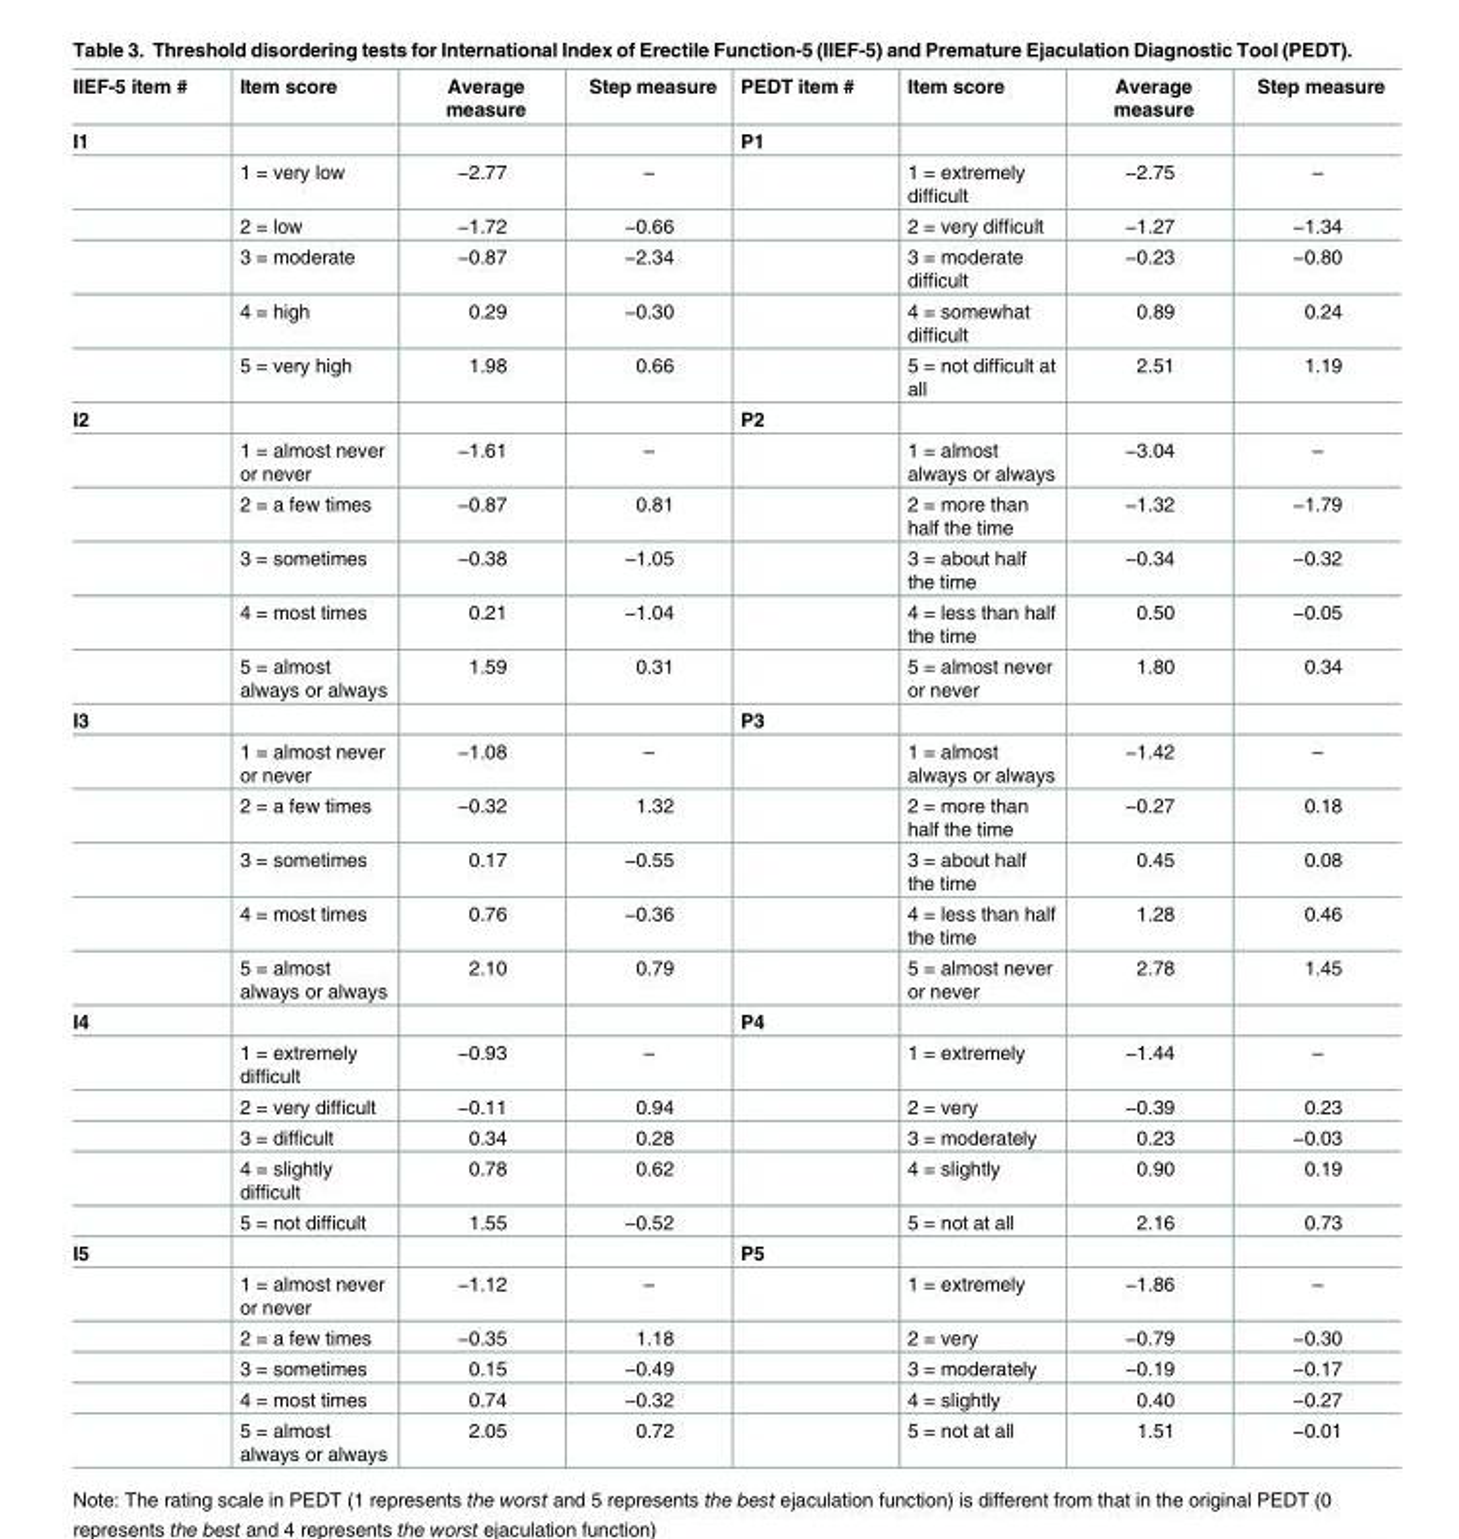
<table><thead><tr><td>IIEF-5 item #</td><td>Item score</td><td>Average measure</td><td>Step measure</td><td>PEDT item #</td><td>Item score</td><td>Average measure</td><td>Step measure</td></tr></thead><tbody><tr><td rowspan="6">I1</td><td></td><td></td><td></td><td>P1</td><td></td><td></td><td></td></tr><tr><td>1 = very low</td><td>−2.77</td><td>–</td><td></td><td>1 = extremely difficult</td><td>−2.75</td><td>–</td></tr><tr><td>2 = low</td><td>−1.72</td><td>−0.66</td><td></td><td>2 = very difficult</td><td>−1.27</td><td>−1.34</td></tr><tr><td>3 = moderate</td><td>−0.87</td><td>−2.34</td><td></td><td>3 = moderate difficult</td><td>−0.23</td><td>−0.80</td></tr><tr><td>4 = high</td><td>0.29</td><td>−0.30</td><td></td><td>4 = somewhat difficult</td><td>0.89</td><td>0.24</td></tr><tr><td>5 = very high</td><td>1.98</td><td>0.66</td><td></td><td>5 = not difficult at all</td><td>2.51</td><td>1.19</td></tr><tr><td rowspan="6">I2</td><td></td><td></td><td></td><td>P2</td><td></td><td></td><td></td></tr><tr><td>1 = almost never or never</td><td>−1.61</td><td>–</td><td></td><td>1 = almost always or always</td><td>−3.04</td><td>–</td></tr><tr><td>2 = a few times</td><td>−0.87</td><td>0.81</td><td></td><td>2 = more than half the time</td><td>−1.32</td><td>−1.79</td></tr><tr><td>3 = sometimes</td><td>−0.38</td><td>−1.05</td><td></td><td>3 = about half the time</td><td>−0.34</td><td>−0.32</td></tr><tr><td>4 = most times</td><td>0.21</td><td>−1.04</td><td></td><td>4 = less than half the time</td><td>0.50</td><td>−0.05</td></tr><tr><td>5 = almost always or always</td><td>1.59</td><td>0.31</td><td></td><td>5 = almost never or never</td><td>1.80</td><td>0.34</td></tr><tr><td rowspan="6">I3</td><td></td><td></td><td></td><td>P3</td><td></td><td></td><td></td></tr><tr><td>1 = almost never or never</td><td>−1.08</td><td>–</td><td></td><td>1 = almost always or always</td><td>−1.42</td><td>–</td></tr><tr><td>2 = a few times</td><td>−0.32</td><td>1.32</td><td></td><td>2 = more than half the time</td><td>−0.27</td><td>0.18</td></tr><tr><td>3 = sometimes</td><td>0.17</td><td>−0.55</td><td></td><td>3 = about half the time</td><td>0.45</td><td>0.08</td></tr><tr><td>4 = most times</td><td>0.76</td><td>−0.36</td><td></td><td>4 = less than half the time</td><td>1.28</td><td>0.46</td></tr><tr><td>5 = almost always or always</td><td>2.10</td><td>0.79</td><td></td><td>5 = almost never or never</td><td>2.78</td><td>1.45</td></tr><tr><td rowspan="6">I4</td><td></td><td></td><td></td><td>P4</td><td></td><td></td><td></td></tr><tr><td>1 = extremely difficult</td><td>−0.93</td><td>–</td><td></td><td>1 = extremely</td><td>−1.44</td><td>–</td></tr><tr><td>2 = very difficult</td><td>−0.11</td><td>0.94</td><td></td><td>2 = very</td><td>−0.39</td><td>0.23</td></tr><tr><td>3 = difficult</td><td>0.34</td><td>0.28</td><td></td><td>3 = moderately</td><td>0.23</td><td>−0.03</td></tr><tr><td>4 = slightly difficult</td><td>0.78</td><td>0.62</td><td></td><td>4 = slightly</td><td>0.90</td><td>0.19</td></tr><tr><td>5 = not difficult</td><td>1.55</td><td>−0.52</td><td></td><td>5 = not at all</td><td>2.16</td><td>0.73</td></tr><tr><td rowspan="6">I5</td><td></td><td></td><td></td><td>P5</td><td></td><td></td><td></td></tr><tr><td>1 = almost never or never</td><td>−1.12</td><td>–</td><td></td><td>1 = extremely</td><td>−1.86</td><td>–</td></tr><tr><td>2 = a few times</td><td>−0.35</td><td>1.18</td><td></td><td>2 = very</td><td>−0.79</td><td>−0.30</td></tr><tr><td>3 = sometimes</td><td>0.15</td><td>−0.49</td><td></td><td>3 = moderately</td><td>−0.19</td><td>−0.17</td></tr><tr><td>4 = most times</td><td>0.74</td><td>−0.32</td><td></td><td>4 = slightly</td><td>0.40</td><td>−0.27</td></tr><tr><td>5 = almost always or always</td><td>2.05</td><td>0.72</td><td></td><td>5 = not at all</td><td>1.51</td><td>−0.01</td></tr></tbody></table>